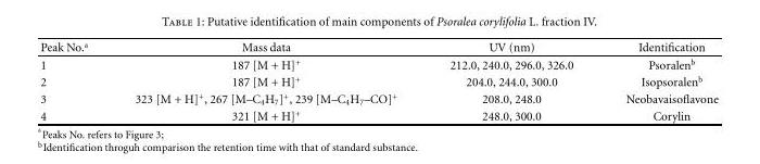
<table><thead><tr><td>Peak No.<sup>a</sup></td><td>Mass data</td><td>UV (nm)</td><td>Identification</td></tr></thead><tbody><tr><td>1</td><td>187 [M + H]<sup>+</sup></td><td>212.0, 240.0, 296.0, 326.0</td><td>Psoralen<sup>b</sup></td></tr><tr><td>2</td><td>187 [M + H]<sup>+</sup></td><td>204.0, 244.0, 300.0</td><td>Isopsoralen<sup>b</sup></td></tr><tr><td>3</td><td>323 [M + H]<sup>+</sup>, 267 [M–C<sub>4</sub>H<sub>7</sub>]<sup>+</sup>, 239 [M–C<sub>4</sub>H<sub>7</sub>–CO]<sup>+</sup></td><td>208.0, 248.0</td><td>Neobavaisoflavone</td></tr><tr><td>4</td><td>321 [M + H]<sup>+</sup></td><td>248.0, 300.0</td><td>Corylin</td></tr></tbody></table>